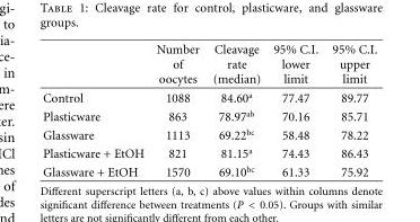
<table><thead><tr><td></td><td>Number of oocytes</td><td>Cleavage rate (median)</td><td>95% C.I. lower limit</td><td>95% C.I. upper limit</td></tr></thead><tbody><tr><td>Control</td><td>1088</td><td>84.60<sup>a</sup></td><td>77.47</td><td>89.77</td></tr><tr><td>Plasticware</td><td>863</td><td>78.97<sup>ab</sup></td><td>70.16</td><td>85.71</td></tr><tr><td>Glassware</td><td>1113</td><td>69.22<sup>bc</sup></td><td>58.48</td><td>78.22</td></tr><tr><td>Plasticware + EtOH</td><td>821</td><td>81.15<sup>a</sup></td><td>74.43</td><td>86.43</td></tr><tr><td>Glassware + EtOH</td><td>1570</td><td>69.10<sup>bc</sup></td><td>61.33</td><td>75.92</td></tr></tbody></table>